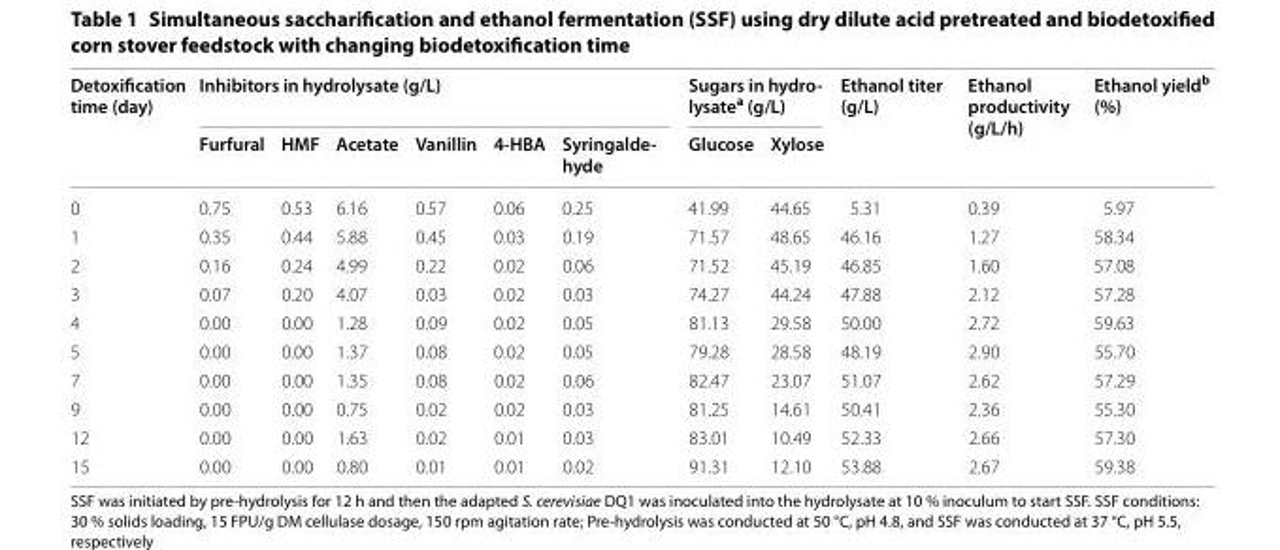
<table><thead><tr><td rowspan="2">Detoxification time (day)</td><td colspan="6">Inhibitors in hydrolysate (g/L)</td><td colspan="2">Sugars in hydro‑ lysatea (g/L)</td><td rowspan="2">Ethanol titer (g/L)</td><td rowspan="2">Ethanol productivity (g/L/h)</td><td rowspan="2">Ethanol yield<sup>b</sup> (%)</td></tr><tr><td>Furfural</td><td>HMF</td><td>Acetate</td><td>Vanillin</td><td>4‑HBA</td><td>Syringalde‑ hyde</td><td>Glucose</td><td>Xylose</td></tr></thead><tbody><tr><td>0</td><td>0.75</td><td>0.53</td><td>6.16</td><td>0.57</td><td>0.06</td><td>0.25</td><td>41.99</td><td>44.65</td><td>5.31</td><td>0.39</td><td>5.97</td></tr><tr><td>1</td><td>0.35</td><td>0.44</td><td>5.88</td><td>0.45</td><td>0.03</td><td>0.19</td><td>71.57</td><td>48.65</td><td>46.16</td><td>1.27</td><td>58.34</td></tr><tr><td>2</td><td>0.16</td><td>0.24</td><td>4.99</td><td>0.22</td><td>0.02</td><td>0.06</td><td>71.52</td><td>45.19</td><td>46.85</td><td>1.60</td><td>57.08</td></tr><tr><td>3</td><td>0.07</td><td>0.20</td><td>4.07</td><td>0.03</td><td>0.02</td><td>0.03</td><td>74.27</td><td>44.24</td><td>47.88</td><td>2.12</td><td>57.28</td></tr><tr><td>4</td><td>0.00</td><td>0.00</td><td>1.28</td><td>0.09</td><td>0.02</td><td>0.05</td><td>81.13</td><td>29.58</td><td>50.00</td><td>2.72</td><td>59.63</td></tr><tr><td>5</td><td>0.00</td><td>0.00</td><td>1.37</td><td>0.08</td><td>0.02</td><td>0.05</td><td>79.28</td><td>28.58</td><td>48.19</td><td>2.90</td><td>55.70</td></tr><tr><td>7</td><td>0.00</td><td>0.00</td><td>1.35</td><td>0.08</td><td>0.02</td><td>0.06</td><td>82.47</td><td>23.07</td><td>51.07</td><td>2.62</td><td>57.29</td></tr><tr><td>9</td><td>0.00</td><td>0.00</td><td>0.75</td><td>0.02</td><td>0.02</td><td>0.03</td><td>81.25</td><td>14.61</td><td>50.41</td><td>2.36</td><td>55.30</td></tr><tr><td>12</td><td>0.00</td><td>0.00</td><td>1.63</td><td>0.02</td><td>0.01</td><td>0.03</td><td>83.01</td><td>10.49</td><td>52.33</td><td>2.66</td><td>57.30</td></tr><tr><td>15</td><td>0.00</td><td>0.00</td><td>0.80</td><td>0.01</td><td>0.01</td><td>0.02</td><td>91.31</td><td>12.10</td><td>53.88</td><td>2.67</td><td>59.38</td></tr></tbody></table>